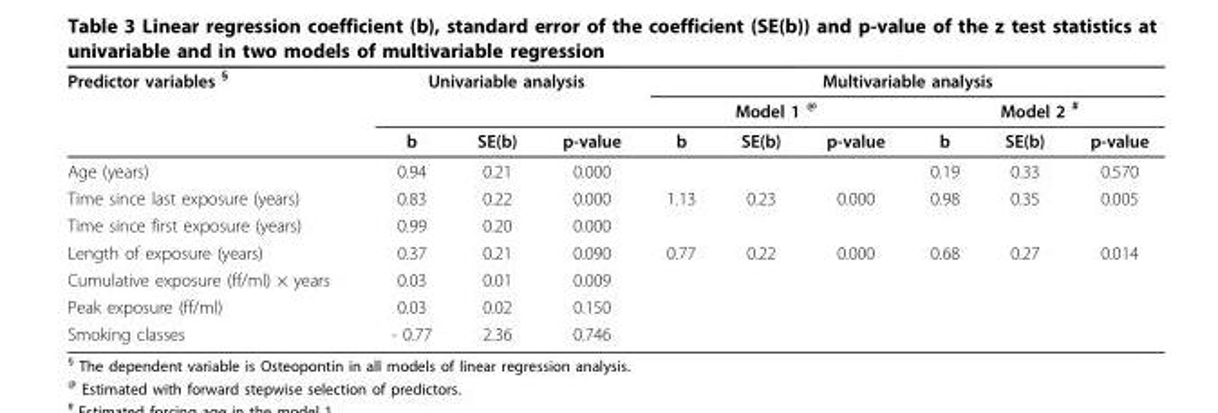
<table><thead><tr><td rowspan="3">Predictor variables <sup>§</sup></td><td colspan="3">Univariable analysis</td><td colspan="6">Multivariable analysis</td></tr><tr><td rowspan="2">b</td><td rowspan="2">SE(b)</td><td rowspan="2">p-value</td><td colspan="3">Model 1 <sup>@</sup></td><td colspan="3">Model 2 <sup>#</sup></td></tr><tr><td>b</td><td>SE(b)</td><td>p-value</td><td>b</td><td>SE(b)</td><td>p-value</td></tr></thead><tbody><tr><td>Age (years)</td><td>0.94</td><td>0.21</td><td>0.000</td><td></td><td></td><td></td><td>0.19</td><td>0.33</td><td>0.570</td></tr><tr><td>Time since last exposure (years)</td><td>0.83</td><td>0.22</td><td>0.000</td><td>1.13</td><td>0.23</td><td>0.000</td><td>0.98</td><td>0.35</td><td>0.005</td></tr><tr><td>Time since first exposure (years)</td><td>0.99</td><td>0.20</td><td>0.000</td><td></td><td></td><td></td><td></td><td></td><td></td></tr><tr><td>Length of exposure (years)</td><td>0.37</td><td>0.21</td><td>0.090</td><td>0.77</td><td>0.22</td><td>0.000</td><td>0.68</td><td>0.27</td><td>0.014</td></tr><tr><td>Cumulative exposure (ff/ml) × years</td><td>0.03</td><td>0.01</td><td>0.009</td><td></td><td></td><td></td><td></td><td></td><td></td></tr><tr><td>Peak exposure (ff/ml)</td><td>0.03</td><td>0.02</td><td>0.150</td><td></td><td></td><td></td><td></td><td></td><td></td></tr><tr><td>Smoking classes</td><td>- 0.77</td><td>2.36</td><td>0.746</td><td></td><td></td><td></td><td></td><td></td><td></td></tr></tbody></table>